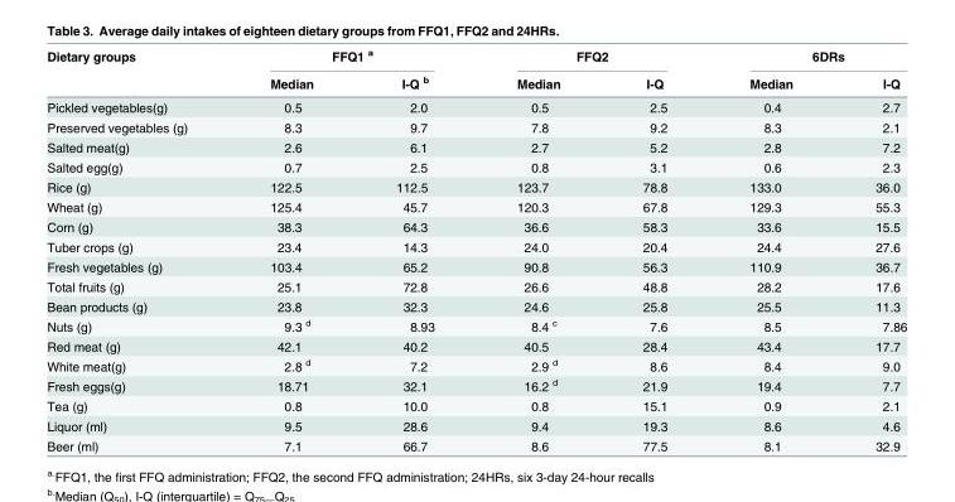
<table><thead><tr><td rowspan="2">Dietary groups</td><td colspan="2">FFQ1 <sup>a</sup></td><td colspan="2">FFQ2</td><td colspan="2">6DRs</td></tr><tr><td>Median</td><td>I-Q <sup>b</sup></td><td>Median</td><td>I-Q</td><td>Median</td><td>I-Q</td></tr></thead><tbody><tr><td>Pickled vegetables(g)</td><td>0.5</td><td>2.0</td><td>0.5</td><td>2.5</td><td>0.4</td><td>2.7</td></tr><tr><td>Preserved vegetables (g)</td><td>8.3</td><td>9.7</td><td>7.8</td><td>9.2</td><td>8.3</td><td>2.1</td></tr><tr><td>Salted meat(g)</td><td>2.6</td><td>6.1</td><td>2.7</td><td>5.2</td><td>2.8</td><td>7.2</td></tr><tr><td>Salted egg(g)</td><td>0.7</td><td>2.5</td><td>0.8</td><td>3.1</td><td>0.6</td><td>2.3</td></tr><tr><td>Rice (g)</td><td>122.5</td><td>112.5</td><td>123.7</td><td>78.8</td><td>133.0</td><td>36.0</td></tr><tr><td>Wheat (g)</td><td>125.4</td><td>45.7</td><td>120.3</td><td>67.8</td><td>129.3</td><td>55.3</td></tr><tr><td>Corn (g)</td><td>38.3</td><td>64.3</td><td>36.6</td><td>58.3</td><td>33.6</td><td>15.5</td></tr><tr><td>Tuber crops (g)</td><td>23.4</td><td>14.3</td><td>24.0</td><td>20.4</td><td>24.4</td><td>27.6</td></tr><tr><td>Fresh vegetables (g)</td><td>103.4</td><td>65.2</td><td>90.8</td><td>56.3</td><td>110.9</td><td>36.7</td></tr><tr><td>Total fruits (g)</td><td>25.1</td><td>72.8</td><td>26.6</td><td>48.8</td><td>28.2</td><td>17.6</td></tr><tr><td>Bean products (g)</td><td>23.8</td><td>32.3</td><td>24.6</td><td>25.8</td><td>25.5</td><td>11.3</td></tr><tr><td>Nuts (g)</td><td>9.3 <sup>d</sup></td><td>8.93</td><td>8.4 <sup>c</sup></td><td>7.6</td><td>8.5</td><td>7.86</td></tr><tr><td>Red meat (g)</td><td>42.1</td><td>40.2</td><td>40.5</td><td>28.4</td><td>43.4</td><td>17.7</td></tr><tr><td>White meat(g)</td><td>2.8 <sup>d</sup></td><td>7.2</td><td>2.9 <sup>d</sup></td><td>8.6</td><td>8.4</td><td>9.0</td></tr><tr><td>Fresh eggs(g)</td><td>18.71</td><td>32.1</td><td>16.2 <sup>d</sup></td><td>21.9</td><td>19.4</td><td>7.7</td></tr><tr><td>Tea (g)</td><td>0.8</td><td>10.0</td><td>0.8</td><td>15.1</td><td>0.9</td><td>2.1</td></tr><tr><td>Liquor (ml)</td><td>9.5</td><td>28.6</td><td>9.4</td><td>19.3</td><td>8.6</td><td>4.6</td></tr><tr><td>Beer (ml)</td><td>7.1</td><td>66.7</td><td>8.6</td><td>77.5</td><td>8.1</td><td>32.9</td></tr></tbody></table>